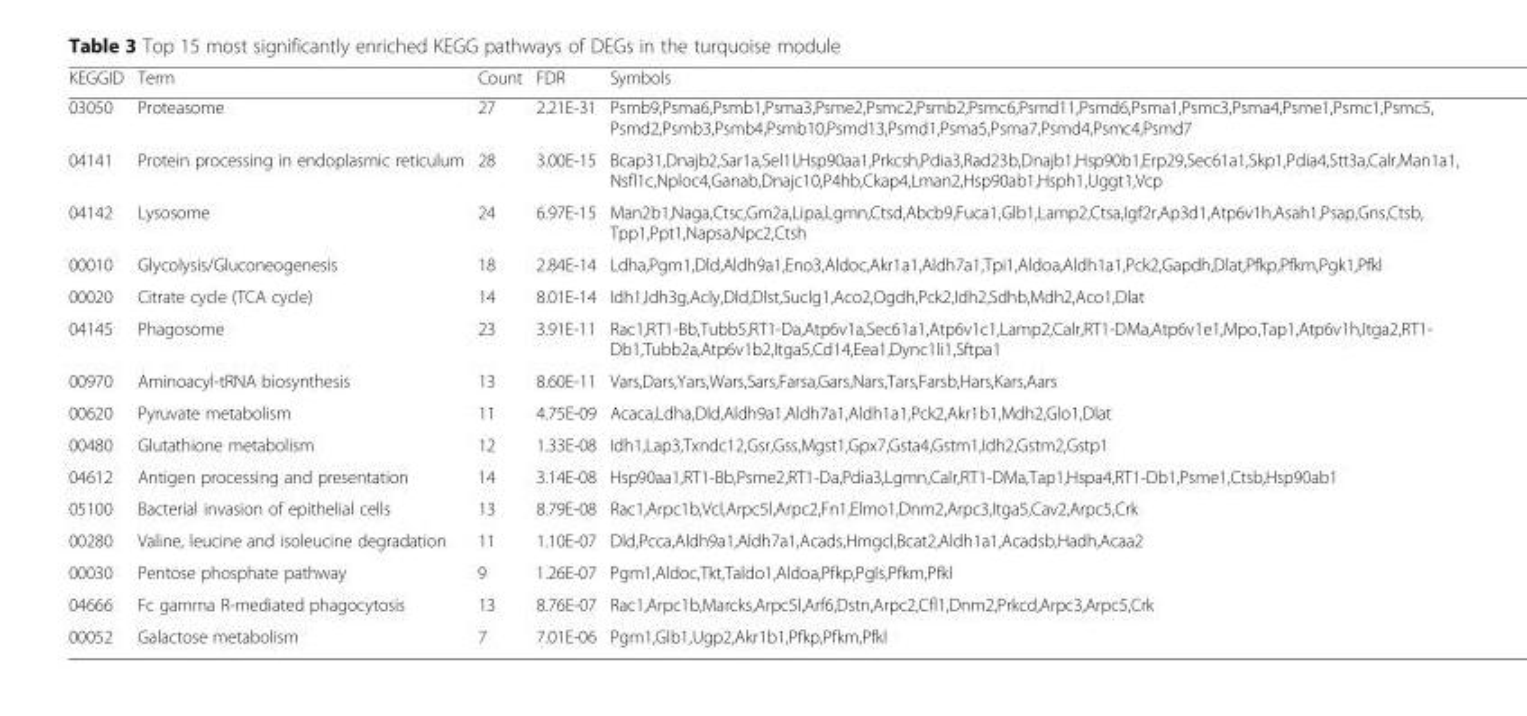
<table><thead><tr><td>KEGGID</td><td>Term</td><td>Count</td><td>FDR</td><td>Symbols</td></tr></thead><tbody><tr><td>03050</td><td>Proteasome</td><td>27</td><td>2.21E-31</td><td>Psmb9,Psma6,Psmb1,Psma3,Psme2,Psmc2,Psmb2,Psmc6,Psmd11,Psmd6,Psma1,Psmc3,Psma4,Psme1,Psmc1,Psmc5, Psmd2,Psmb3,Psmb4,Psmb10,Psmd13,Psmd1,Psma5,Psma7,Psmd4,Psmc4,Psmd7</td></tr><tr><td>04141</td><td>Protein processing in endoplasmic reticulum</td><td>28</td><td>3.00E-15</td><td>Bcap31,Dnajb2,Sar1a,Sel1l,Hsp90aa1,Prkcsh,Pdia3,Rad23b,Dnajb1,Hsp90b1,Erp29,Sec61a1,Skp1,Pdia4,Stt3a,Calr,Man1a1, Nsfl1c,Nploc4,Ganab,Dnajc10,P4hb,Ckap4,Lman2,Hsp90ab1,Hsph1,Uggt1,Vcp</td></tr><tr><td>04142</td><td>Lysosome</td><td>24</td><td>6.97E-15</td><td>Man2b1,Naga,Ctsc,Gm2a,Lipa,Lgmn,Ctsd,Abcb9,Fuca1,Glb1,Lamp2,Ctsa,Igf2r,Ap3d1,Atp6v1h,Asah1,Psap,Gns,Ctsb, Tpp1,Ppt1,Napsa,Npc2,Ctsh</td></tr><tr><td>00010</td><td>Glycolysis/Gluconeogenesis</td><td>18</td><td>2.84E-14</td><td>Ldha,Pgm1,Dld,Aldh9a1,Eno3,Aldoc,Akr1a1,Aldh7a1,Tpi1,Aldoa,Aldh1a1,Pck2,Gapdh,Dlat,Pfkp,Pfkm,Pgk1,Pfkl</td></tr><tr><td>00020</td><td>Citrate cycle (TCA cycle)</td><td>14</td><td>8.01E-14</td><td>Idh1,Idh3g,Acly,Dld,Dlst,Suclg1,Aco2,Ogdh,Pck2,Idh2,Sdhb,Mdh2,Aco1,Dlat</td></tr><tr><td>04145</td><td>Phagosome</td><td>23</td><td>3.91E-11</td><td>Rac1,RT1-Bb,Tubb5,RT1-Da,Atp6v1a,Sec61a1,Atp6v1c1,Lamp2,Calr,RT1-DMa,Atp6v1e1,Mpo,Tap1,Atp6v1h,Itga2,RT1- Db1,Tubb2a,Atp6v1b2,Itga5,Cd14,Eea1,Dync1li1,Sftpa1</td></tr><tr><td>00970</td><td>Aminoacyl-tRNA biosynthesis</td><td>13</td><td>8.60E-11</td><td>Vars,Dars,Yars,Wars,Sars,Farsa,Gars,Nars,Tars,Farsb,Hars,Kars,Aars</td></tr><tr><td>00620</td><td>Pyruvate metabolism</td><td>11</td><td>4.75E-09</td><td>Acaca,Ldha,Dld,Aldh9a1,Aldh7a1,Aldh1a1,Pck2,Akr1b1,Mdh2,Glo1,Dlat</td></tr><tr><td>00480</td><td>Glutathione metabolism</td><td>12</td><td>1.33E-08</td><td>Idh1,Lap3,Txndc12,Gsr,Gss,Mgst1,Gpx7,Gsta4,Gstm1,Idh2,Gstm2,Gstp1</td></tr><tr><td>04612</td><td>Antigen processing and presentation</td><td>14</td><td>3.14E-08</td><td>Hsp90aa1,RT1-Bb,Psme2,RT1-Da,Pdia3,Lgmn,Calr,RT1-DMa,Tap1,Hspa4,RT1-Db1,Psme1,Ctsb,Hsp90ab1</td></tr><tr><td>05100</td><td>Bacterial invasion of epithelial cells</td><td>13</td><td>8.79E-08</td><td>Rac1,Arpc1b,Vcl,Arpc5l,Arpc2,Fn1,Elmo1,Dnm2,Arpc3,Itga5,Cav2,Arpc5,Crk</td></tr><tr><td>00280</td><td>Valine, leucine and isoleucine degradation</td><td>11</td><td>1.10E-07</td><td>Dld,Pcca,Aldh9a1,Aldh7a1,Acads,Hmgcl,Bcat2,Aldh1a1,Acadsb,Hadh,Acaa2</td></tr><tr><td>00030</td><td>Pentose phosphate pathway</td><td>9</td><td>1.26E-07</td><td>Pgm1,Aldoc,Tkt,Taldo1,Aldoa,Pfkp,Pgls,Pfkm,Pfkl</td></tr><tr><td>04666</td><td>Fc gamma R-mediated phagocytosis</td><td>13</td><td>8.76E-07</td><td>Rac1,Arpc1b,Marcks,Arpc5l,Arf6,Dstn,Arpc2,Cfl1,Dnm2,Prkcd,Arpc3,Arpc5,Crk</td></tr><tr><td>00052</td><td>Galactose metabolism</td><td>7</td><td>7.01E-06</td><td>Pgm1,Glb1,Ugp2,Akr1b1,Pfkp,Pfkm,Pfkl</td></tr></tbody></table>